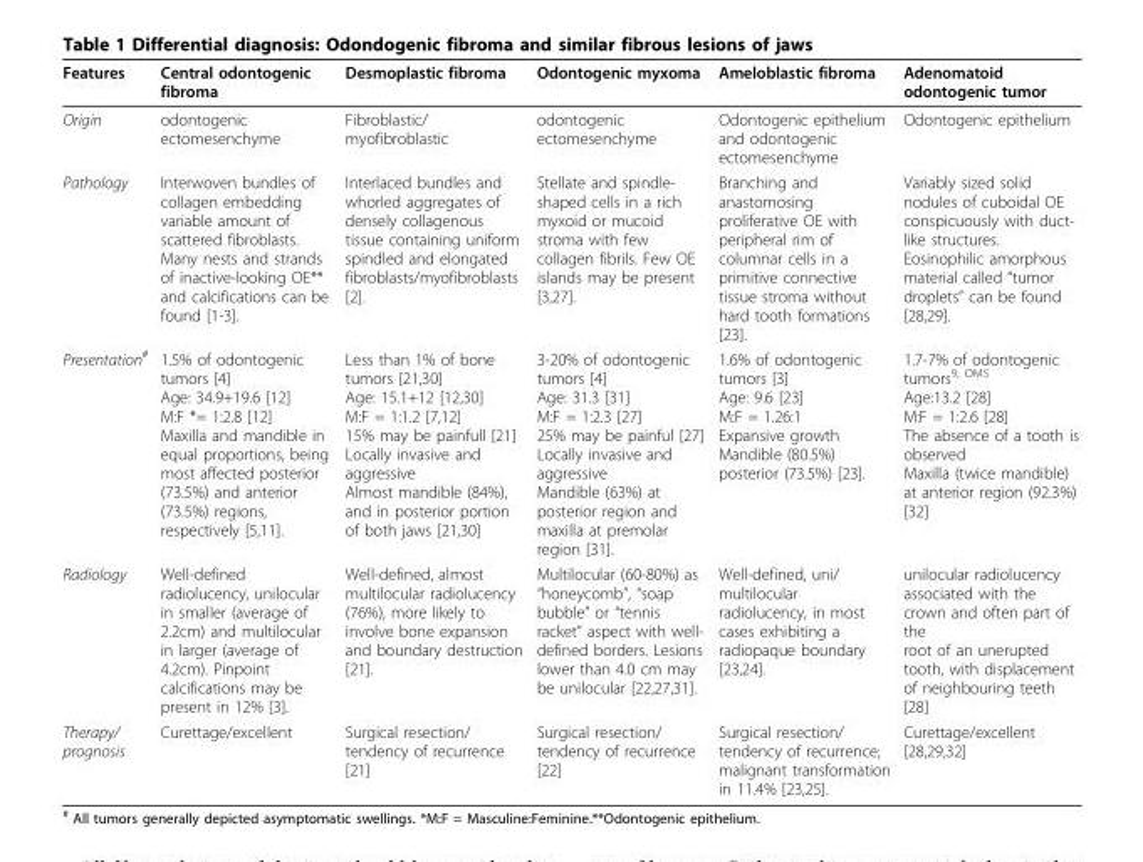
<table><thead><tr><td>Features</td><td>Central odontogenic fibroma</td><td>Desmoplastic fibroma</td><td>Odontogenic myxoma</td><td>Ameloblastic fibroma</td><td>Adenomatoid odontogenic tumor</td></tr></thead><tbody><tr><td>Origin</td><td>odontogenic ectomesenchyme</td><td>Fibroblastic/ myofibroblastic</td><td>odontogenic ectomesenchyme</td><td>Odontogenic epithelium and odontogenic ectomesenchyme</td><td>Odontogenic epithelium</td></tr><tr><td>Pathology</td><td>Interwoven bundles of collagen embedding variable amount of scattered fibroblasts. Many nests and strands of inactive-looking OE** and calcifications can be found [1-3].</td><td>Interlaced bundles and whorled aggregates of densely collagenous tissue containing uniform spindled and elongated fibroblasts/myofibroblasts [2].</td><td>Stellate and spindle- shaped cells in a rich myxoid or mucoid stroma with few collagen fibrils. Few OE islands may be present [3,27].</td><td>Branching and anastomosing proliferative OE with peripheral rim of columnar cells in a primitive connective tissue stroma without hard tooth formations [23].</td><td>Variably sized solid nodules of cuboidal OE conspicuously with duct- like structures. Eosinophilic amorphous material called “tumor droplets” can be found [28,29].</td></tr><tr><td>Presentation<sup>#</sup></td><td>1.5% of odontogenic tumors [4] Age: 34.9+19.6 [12] M:F *= 1:2.8 [12] Maxilla and mandible in equal proportions, being most affected posterior (73.5%) and anterior (73.5%) regions, respectively [5,11].</td><td>Less than 1% of bone tumors [21,30] Age: 15.1+12 [12,30] M:F = 1:1.2 [7,12] 15% may be painfull [21] Locally invasive and aggressive Almost mandible (84%), and in posterior portion of both jaws [21,30]</td><td>3-20% of odontogenic tumors [4] Age: 31.3 [31] M:F = 1:2.3 [27] 25% may be painful [27] Locally invasive and aggressive Mandible (63%) at posterior region and maxilla at premolar region [31].</td><td>1.6% of odontogenic tumors [3] Age: 9.6 [23] M:F = 1.26:1 Expansive growth Mandible (80.5%) posterior (73.5%) [23].</td><td>1.7-7% of odontogenic tumors<sup>9, OMS</sup> Age:13.2 [28] M:F = 1:2.6 [28] The absence of a tooth is observed Maxilla (twice mandible) at anterior region (92.3%) [32]</td></tr><tr><td>Radiology</td><td>Well-defined radiolucency, unilocular in smaller (average of 2.2cm) and multilocular in larger (average of 4.2cm). Pinpoint calcifications may be present in 12% [3].</td><td>Well-defined, almost multilocular radiolucency (76%), more likely to involve bone expansion and boundary destruction [21].</td><td>Multilocular (60-80%) as “honeycomb”, “soap bubble” or “tennis racket” aspect with well- defined borders. Lesions lower than 4.0 cm may be unilocular [22,27,31].</td><td>Well-defined, uni/ multilocular radiolucency, in most cases exhibiting a radiopaque boundary [23,24].</td><td>unilocular radiolucency associated with the crown and often part of the root of an unerupted tooth, with displacement of neighbouring teeth [28]</td></tr><tr><td>Therapy/ prognosis</td><td>Curettage/excellent</td><td>Surgical resection/ tendency of recurrence [21]</td><td>Surgical resection/ tendency of recurrence [22]</td><td>Surgical resection/ tendency of recurrence; malignant transformation in 11.4% [23,25].</td><td>Curettage/excellent [28,29,32]</td></tr></tbody></table>